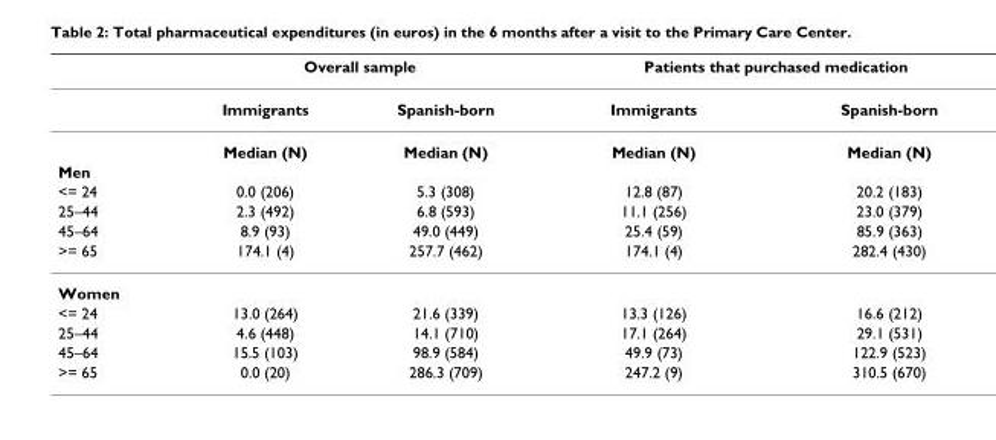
<table><thead><tr><td rowspan="2"></td><td colspan="2">Overall sample</td><td colspan="2">Patients that purchased medication</td></tr><tr><td>Immigrants</td><td>Spanish-born</td><td>Immigrants</td><td>Spanish-born</td></tr></thead><tbody><tr><td></td><td>Median (N)</td><td>Median (N)</td><td>Median (N)</td><td>Median (N)</td></tr><tr><td colspan="5">Men</td></tr><tr><td>&lt;= 24</td><td>0.0 (206)</td><td>5.3 (308)</td><td>12.8 (87)</td><td>20.2 (183)</td></tr><tr><td>25–44</td><td>2.3 (492)</td><td>6.8 (593)</td><td>11.1 (256)</td><td>23.0 (379)</td></tr><tr><td>45–64</td><td>8.9 (93)</td><td>49.0 (449)</td><td>25.4 (59)</td><td>85.9 (363)</td></tr><tr><td>&gt;= 65</td><td>174.1 (4)</td><td>257.7 (462)</td><td>174.1 (4)</td><td>282.4 (430)</td></tr><tr><td colspan="5">Women</td></tr><tr><td>&lt;= 24</td><td>13.0 (264)</td><td>21.6 (339)</td><td>13.3 (126)</td><td>16.6 (212)</td></tr><tr><td>25–44</td><td>4.6 (448)</td><td>14.1 (710)</td><td>17.1 (264)</td><td>29.1 (531)</td></tr><tr><td>45–64</td><td>15.5 (103)</td><td>98.9 (584)</td><td>49.9 (73)</td><td>122.9 (523)</td></tr><tr><td>&gt;= 65</td><td>0.0 (20)</td><td>286.3 (709)</td><td>247.2 (9)</td><td>310.5 (670)</td></tr></tbody></table>